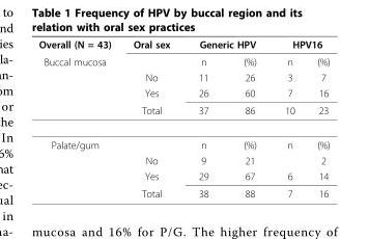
<table><thead><tr><td rowspan="5">Overall (N = 43) Buccal mucosa</td><td rowspan="5">Oral sex No Yes Total</td><td colspan="2">Generic HPV</td><td colspan="2">HPV16</td></tr><tr><td rowspan="4">n 11 26 37</td><td rowspan="4">(%) 26 60 86</td><td rowspan="4">n 3 7 10</td><td rowspan="4">(%) 7 16 23</td></tr><tr></tr><tr></tr><tr></tr></thead><tbody><tr><td rowspan="4">Palate/gum</td><td></td><td>n</td><td>(%)</td><td>n</td><td>(%)</td></tr><tr><td>No</td><td>9</td><td>21</td><td></td><td>2</td></tr><tr><td>Yes</td><td>29</td><td>67</td><td>6</td><td>14</td></tr><tr><td>Total</td><td>38</td><td>88</td><td>7</td><td>16</td></tr></tbody></table>